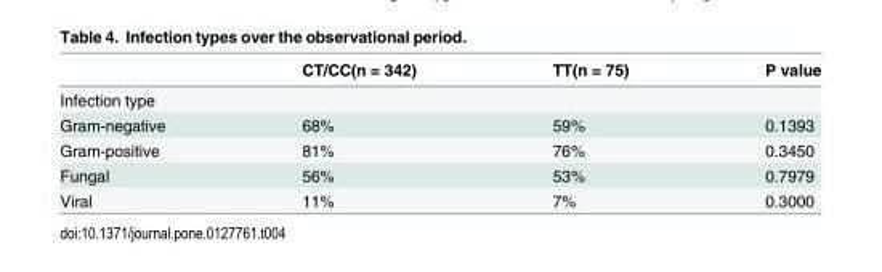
<table><thead><tr><td></td><td>CT/CC(n = 342)</td><td>TT(n = 75)</td><td>P value</td></tr></thead><tbody><tr><td colspan="4">Infection type</td></tr><tr><td>Gram-negative</td><td>68%</td><td>59%</td><td>0.1393</td></tr><tr><td>Gram-positive</td><td>81%</td><td>76%</td><td>0.3450</td></tr><tr><td>Fungal</td><td>56%</td><td>53%</td><td>0.7979</td></tr><tr><td>Viral</td><td>11%</td><td>7%</td><td>0.3000</td></tr></tbody></table>